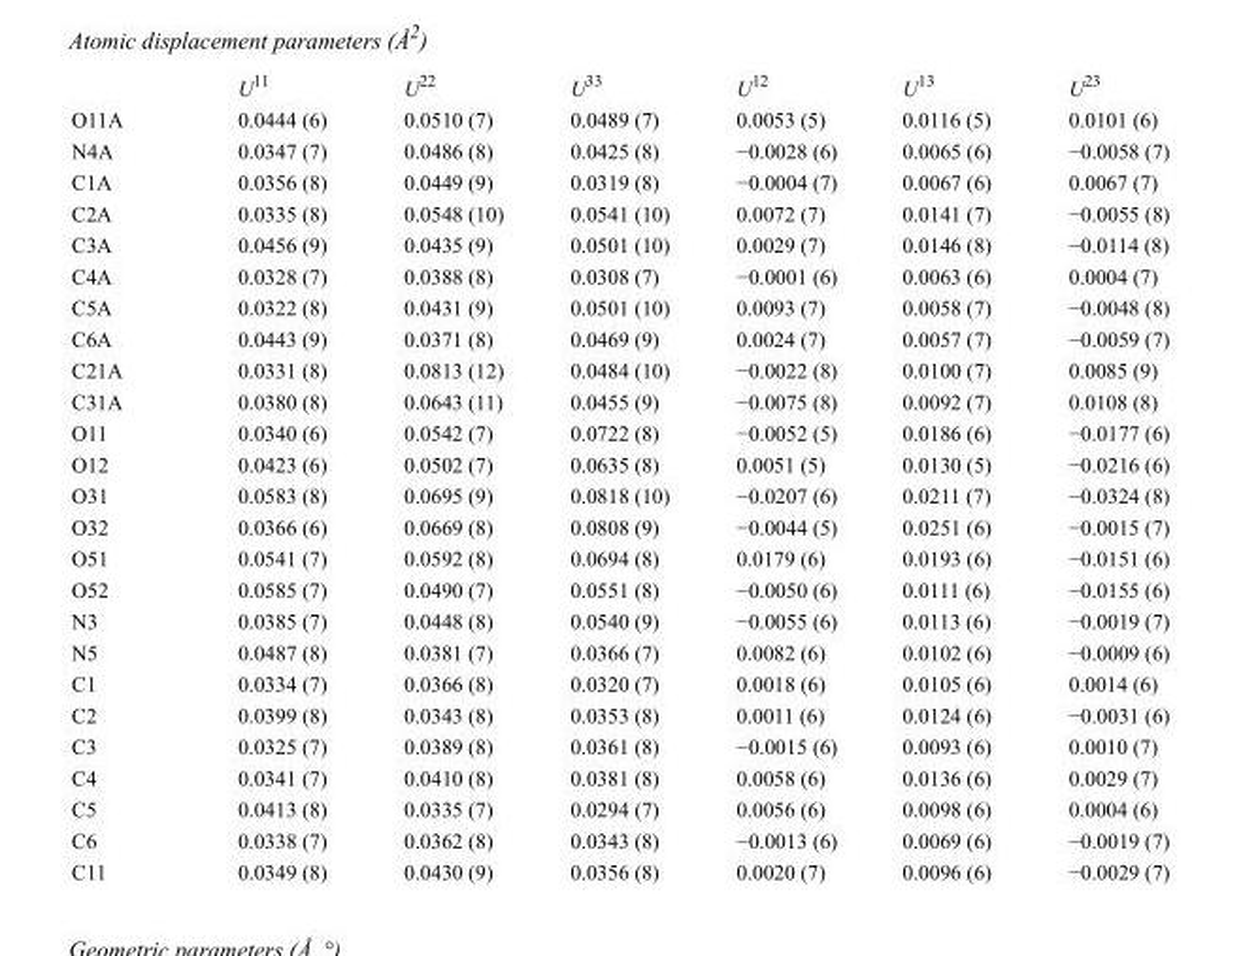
<table><thead><tr><td></td><td>U<sup>11</sup></td><td>U<sup>22</sup></td><td>U<sup>33</sup></td><td>U<sup>12</sup></td><td>U<sup>13</sup></td><td>U<sup>23</sup></td></tr></thead><tbody><tr><td>O11A</td><td>0.0444 (6)</td><td>0.0510 (7)</td><td>0.0489 (7)</td><td>0.0053 (5)</td><td>0.0116 (5)</td><td>0.0101 (6)</td></tr><tr><td>N4A</td><td>0.0347 (7)</td><td>0.0486 (8)</td><td>0.0425 (8)</td><td>−0.0028 (6)</td><td>0.0065 (6)</td><td>−0.0058 (7)</td></tr><tr><td>C1A</td><td>0.0356 (8)</td><td>0.0449 (9)</td><td>0.0319 (8)</td><td>−0.0004 (7)</td><td>0.0067 (6)</td><td>0.0067 (7)</td></tr><tr><td>C2A</td><td>0.0335 (8)</td><td>0.0548 (10)</td><td>0.0541 (10)</td><td>0.0072 (7)</td><td>0.0141 (7)</td><td>−0.0055 (8)</td></tr><tr><td>C3A</td><td>0.0456 (9)</td><td>0.0435 (9)</td><td>0.0501 (10)</td><td>0.0029 (7)</td><td>0.0146 (8)</td><td>−0.0114 (8)</td></tr><tr><td>C4A</td><td>0.0328 (7)</td><td>0.0388 (8)</td><td>0.0308 (7)</td><td>−0.0001 (6)</td><td>0.0063 (6)</td><td>0.0004 (7)</td></tr><tr><td>C5A</td><td>0.0322 (8)</td><td>0.0431 (9)</td><td>0.0501 (10)</td><td>0.0093 (7)</td><td>0.0058 (7)</td><td>−0.0048 (8)</td></tr><tr><td>C6A</td><td>0.0443 (9)</td><td>0.0371 (8)</td><td>0.0469 (9)</td><td>0.0024 (7)</td><td>0.0057 (7)</td><td>−0.0059 (7)</td></tr><tr><td>C21A</td><td>0.0331 (8)</td><td>0.0813 (12)</td><td>0.0484 (10)</td><td>−0.0022 (8)</td><td>0.0100 (7)</td><td>0.0085 (9)</td></tr><tr><td>C31A</td><td>0.0380 (8)</td><td>0.0643 (11)</td><td>0.0455 (9)</td><td>−0.0075 (8)</td><td>0.0092 (7)</td><td>0.0108 (8)</td></tr><tr><td>O11</td><td>0.0340 (6)</td><td>0.0542 (7)</td><td>0.0722 (8)</td><td>−0.0052 (5)</td><td>0.0186 (6)</td><td>−0.0177 (6)</td></tr><tr><td>O12</td><td>0.0423 (6)</td><td>0.0502 (7)</td><td>0.0635 (8)</td><td>0.0051 (5)</td><td>0.0130 (5)</td><td>−0.0216 (6)</td></tr><tr><td>O31</td><td>0.0583 (8)</td><td>0.0695 (9)</td><td>0.0818 (10)</td><td>−0.0207 (6)</td><td>0.0211 (7)</td><td>−0.0324 (8)</td></tr><tr><td>O32</td><td>0.0366 (6)</td><td>0.0669 (8)</td><td>0.0808 (9)</td><td>−0.0044 (5)</td><td>0.0251 (6)</td><td>−0.0015 (7)</td></tr><tr><td>O51</td><td>0.0541 (7)</td><td>0.0592 (8)</td><td>0.0694 (8)</td><td>0.0179 (6)</td><td>0.0193 (6)</td><td>−0.0151 (6)</td></tr><tr><td>O52</td><td>0.0585 (7)</td><td>0.0490 (7)</td><td>0.0551 (8)</td><td>−0.0050 (6)</td><td>0.0111 (6)</td><td>−0.0155 (6)</td></tr><tr><td>N3</td><td>0.0385 (7)</td><td>0.0448 (8)</td><td>0.0540 (9)</td><td>−0.0055 (6)</td><td>0.0113 (6)</td><td>−0.0019 (7)</td></tr><tr><td>N5</td><td>0.0487 (8)</td><td>0.0381 (7)</td><td>0.0366 (7)</td><td>0.0082 (6)</td><td>0.0102 (6)</td><td>−0.0009 (6)</td></tr><tr><td>C1</td><td>0.0334 (7)</td><td>0.0366 (8)</td><td>0.0320 (7)</td><td>0.0018 (6)</td><td>0.0105 (6)</td><td>0.0014 (6)</td></tr><tr><td>C2</td><td>0.0399 (8)</td><td>0.0343 (8)</td><td>0.0353 (8)</td><td>0.0011 (6)</td><td>0.0124 (6)</td><td>−0.0031 (6)</td></tr><tr><td>C3</td><td>0.0325 (7)</td><td>0.0389 (8)</td><td>0.0361 (8)</td><td>−0.0015 (6)</td><td>0.0093 (6)</td><td>0.0010 (7)</td></tr><tr><td>C4</td><td>0.0341 (7)</td><td>0.0410 (8)</td><td>0.0381 (8)</td><td>0.0058 (6)</td><td>0.0136 (6)</td><td>0.0029 (7)</td></tr><tr><td>C5</td><td>0.0413 (8)</td><td>0.0335 (7)</td><td>0.0294 (7)</td><td>0.0056 (6)</td><td>0.0098 (6)</td><td>0.0004 (6)</td></tr><tr><td>C6</td><td>0.0338 (7)</td><td>0.0362 (8)</td><td>0.0343 (8)</td><td>−0.0013 (6)</td><td>0.0069 (6)</td><td>−0.0019 (7)</td></tr><tr><td>C11</td><td>0.0349 (8)</td><td>0.0430 (9)</td><td>0.0356 (8)</td><td>0.0020 (7)</td><td>0.0096 (6)</td><td>−0.0029 (7)</td></tr></tbody></table>